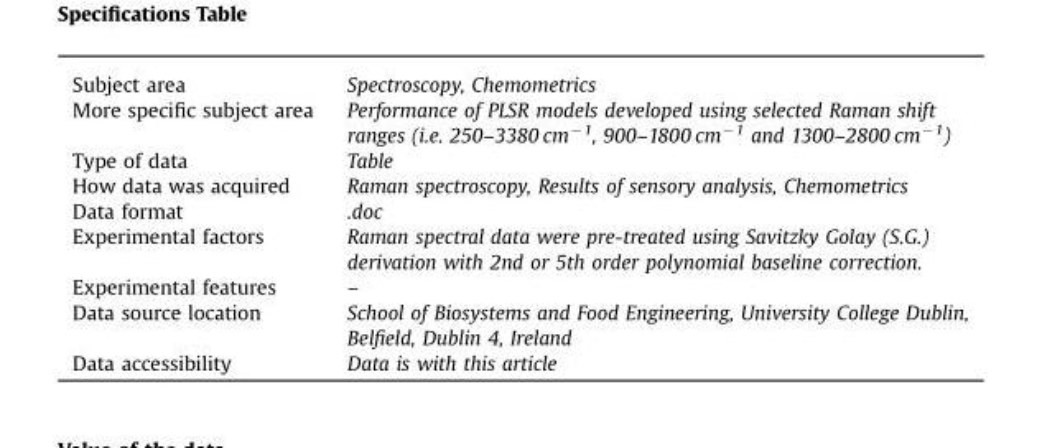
<table><tbody><tr><td>Subject area</td><td>Spectroscopy, Chemometrics</td></tr><tr><td>More specific subject area</td><td>Performance of PLSR models developed using selected Raman shift ranges (i.e. 250–3380 cm<sup>−1</sup>, 900–1800 cm<sup>−1</sup> and 1300–2800 cm<sup>−1</sup>)</td></tr><tr><td>Type of data</td><td>Table</td></tr><tr><td>How data was acquired</td><td>Raman spectroscopy, Results of sensory analysis, Chemometrics</td></tr><tr><td>Data format</td><td>.doc</td></tr><tr><td>Experimental factors</td><td>Raman spectral data were pre-treated using Savitzky Golay (S.G.) derivation with 2nd or 5th order polynomial baseline correction.</td></tr><tr><td>Experimental features</td><td>–</td></tr><tr><td>Data source location</td><td>School of Biosystems and Food Engineering, University College Dublin, Belfield, Dublin 4, Ireland</td></tr><tr><td>Data accessibility</td><td>Data is with this article</td></tr></tbody></table>